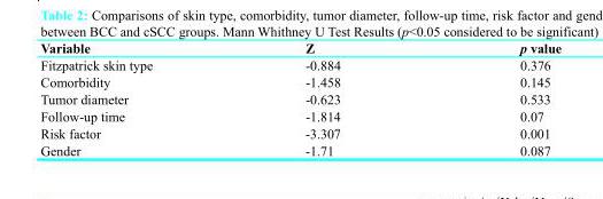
<table><thead><tr><td>Variable</td><td>Z</td><td>p value</td></tr></thead><tbody><tr><td>Fitzpatrick skin type</td><td>-0.884</td><td>0.376</td></tr><tr><td>Comorbidity</td><td>-1.458</td><td>0.145</td></tr><tr><td>Tumor diameter</td><td>-0.623</td><td>0.533</td></tr><tr><td>Follow-up time</td><td>-1.814</td><td>0.07</td></tr><tr><td>Risk factor</td><td>-3.307</td><td>0.001</td></tr><tr><td>Gender</td><td>-1.71</td><td>0.087</td></tr></tbody></table>